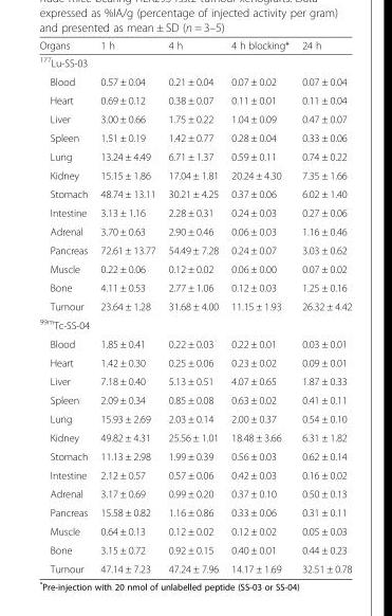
<table><thead><tr><td>Organs</td><td>1 h</td><td>4 h</td><td>4 h blocking*</td><td>24 h</td></tr></thead><tbody><tr><td colspan="5"><sup>177</sup>Lu-SS-03</td></tr><tr><td>Blood</td><td>0.57 ± 0.04</td><td>0.21 ± 0.04</td><td>0.07 ± 0.02</td><td>0.07 ± 0.04</td></tr><tr><td>Heart</td><td>0.69 ± 0.12</td><td>0.38 ± 0.07</td><td>0.11 ± 0.01</td><td>0.11 ± 0.04</td></tr><tr><td>Liver</td><td>3.00 ± 0.66</td><td>1.75 ± 0.22</td><td>1.04 ± 0.09</td><td>0.47 ± 0.07</td></tr><tr><td>Spleen</td><td>1.51 ± 0.19</td><td>1.42 ± 0.77</td><td>0.28 ± 0.04</td><td>0.33 ± 0.06</td></tr><tr><td>Lung</td><td>13.24 ± 4.49</td><td>6.71 ± 1.37</td><td>0.59 ± 0.11</td><td>0.74 ± 0.22</td></tr><tr><td>Kidney</td><td>15.15 ± 1.86</td><td>17.04 ± 1.81</td><td>20.24 ± 4.30</td><td>7.35 ± 1.66</td></tr><tr><td>Stomach</td><td>48.74 ± 13.11</td><td>30.21 ± 4.25</td><td>0.37 ± 0.06</td><td>6.02 ± 1.40</td></tr><tr><td>Intestine</td><td>3.13 ± 1.16</td><td>2.28 ± 0.31</td><td>0.24 ± 0.03</td><td>0.27 ± 0.06</td></tr><tr><td>Adrenal</td><td>3.70 ± 0.63</td><td>2.90 ± 0.46</td><td>0.06 ± 0.03</td><td>1.16 ± 0.46</td></tr><tr><td>Pancreas</td><td>72.61 ± 13.77</td><td>54.49 ± 7.28</td><td>0.24 ± 0.07</td><td>3.03 ± 0.62</td></tr><tr><td>Muscle</td><td>0.22 ± 0.06</td><td>0.12 ± 0.02</td><td>0.06 ± 0.00</td><td>0.07 ± 0.02</td></tr><tr><td>Bone</td><td>4.11 ± 0.53</td><td>2.77 ± 1.06</td><td>0.12 ± 0.03</td><td>1.25 ± 0.16</td></tr><tr><td>Tumour</td><td>23.64 ± 1.28</td><td>31.68 ± 4.00</td><td>11.15 ± 1.93</td><td>26.32 ± 4.42</td></tr><tr><td colspan="5"><sup>99m</sup>Tc-SS-04</td></tr><tr><td>Blood</td><td>1.85 ± 0.41</td><td>0.22 ± 0.03</td><td>0.22 ± 0.01</td><td>0.03 ± 0.01</td></tr><tr><td>Heart</td><td>1.42 ± 0.30</td><td>0.25 ± 0.06</td><td>0.23 ± 0.02</td><td>0.09 ± 0.01</td></tr><tr><td>Liver</td><td>7.18 ± 0.40</td><td>5.13 ± 0.51</td><td>4.07 ± 0.65</td><td>1.87 ± 0.33</td></tr><tr><td>Spleen</td><td>2.09 ± 0.34</td><td>0.85 ± 0.08</td><td>0.63 ± 0.02</td><td>0.41 ± 0.11</td></tr><tr><td>Lung</td><td>15.93 ± 2.69</td><td>2.03 ± 0.14</td><td>2.00 ± 0.37</td><td>0.54 ± 0.10</td></tr><tr><td>Kidney</td><td>49.82 ± 4.31</td><td>25.56 ± 1.01</td><td>18.48 ± 3.66</td><td>6.31 ± 1.82</td></tr><tr><td>Stomach</td><td>11.13 ± 2.98</td><td>1.99 ± 0.39</td><td>0.56 ± 0.03</td><td>0.62 ± 0.14</td></tr><tr><td>Intestine</td><td>2.12 ± 0.57</td><td>0.57 ± 0.06</td><td>0.42 ± 0.03</td><td>0.16 ± 0.02</td></tr><tr><td>Adrenal</td><td>3.17 ± 0.69</td><td>0.99 ± 0.20</td><td>0.37 ± 0.10</td><td>0.50 ± 0.13</td></tr><tr><td>Pancreas</td><td>15.58 ± 0.82</td><td>1.16 ± 0.86</td><td>0.33 ± 0.06</td><td>0.31 ± 0.11</td></tr><tr><td>Muscle</td><td>0.64 ± 0.13</td><td>0.12 ± 0.02</td><td>0.12 ± 0.02</td><td>0.05 ± 0.03</td></tr><tr><td>Bone</td><td>3.15 ± 0.72</td><td>0.92 ± 0.15</td><td>0.40 ± 0.01</td><td>0.44 ± 0.23</td></tr><tr><td>Tumour</td><td>47.14 ± 7.23</td><td>47.24 ± 7.96</td><td>14.17 ± 1.69</td><td>32.51 ± 0.78</td></tr></tbody></table>